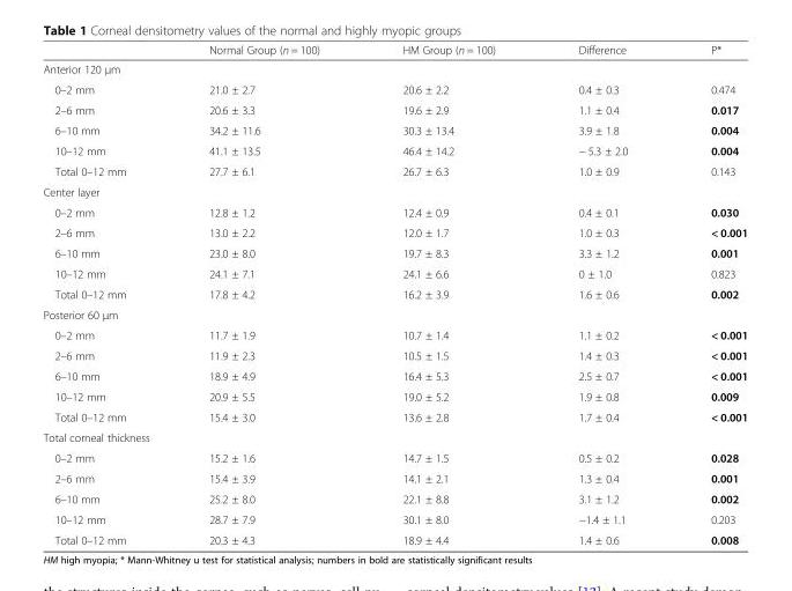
<table><thead><tr><td></td><td>Normal Group (n = 100)</td><td>HM Group (n = 100)</td><td>Difference</td><td>P*</td></tr></thead><tbody><tr><td colspan="5">Anterior 120 μm</td></tr><tr><td>0–2 mm</td><td>21.0 ± 2.7</td><td>20.6 ± 2.2</td><td>0.4 ± 0.3</td><td>0.474</td></tr><tr><td>2–6 mm</td><td>20.6 ± 3.3</td><td>19.6 ± 2.9</td><td>1.1 ± 0.4</td><td>0.017</td></tr><tr><td>6–10 mm</td><td>34.2 ± 11.6</td><td>30.3 ± 13.4</td><td>3.9 ± 1.8</td><td>0.004</td></tr><tr><td>10–12 mm</td><td>41.1 ± 13.5</td><td>46.4 ± 14.2</td><td>− 5.3 ± 2.0</td><td>0.004</td></tr><tr><td>Total 0–12 mm</td><td>27.7 ± 6.1</td><td>26.7 ± 6.3</td><td>1.0 ± 0.9</td><td>0.143</td></tr><tr><td colspan="5">Center layer</td></tr><tr><td>0–2 mm</td><td>12.8 ± 1.2</td><td>12.4 ± 0.9</td><td>0.4 ± 0.1</td><td>0.030</td></tr><tr><td>2–6 mm</td><td>13.0 ± 2.2</td><td>12.0 ± 1.7</td><td>1.0 ± 0.3</td><td>&lt; 0.001</td></tr><tr><td>6–10 mm</td><td>23.0 ± 8.0</td><td>19.7 ± 8.3</td><td>3.3 ± 1.2</td><td>0.001</td></tr><tr><td>10–12 mm</td><td>24.1 ± 7.1</td><td>24.1 ± 6.6</td><td>0 ± 1.0</td><td>0.823</td></tr><tr><td>Total 0–12 mm</td><td>17.8 ± 4.2</td><td>16.2 ± 3.9</td><td>1.6 ± 0.6</td><td>0.002</td></tr><tr><td colspan="5">Posterior 60 μm</td></tr><tr><td>0–2 mm</td><td>11.7 ± 1.9</td><td>10.7 ± 1.4</td><td>1.1 ± 0.2</td><td>&lt; 0.001</td></tr><tr><td>2–6 mm</td><td>11.9 ± 2.3</td><td>10.5 ± 1.5</td><td>1.4 ± 0.3</td><td>&lt; 0.001</td></tr><tr><td>6–10 mm</td><td>18.9 ± 4.9</td><td>16.4 ± 5.3</td><td>2.5 ± 0.7</td><td>&lt; 0.001</td></tr><tr><td>10–12 mm</td><td>20.9 ± 5.5</td><td>19.0 ± 5.2</td><td>1.9 ± 0.8</td><td>0.009</td></tr><tr><td>Total 0–12 mm</td><td>15.4 ± 3.0</td><td>13.6 ± 2.8</td><td>1.7 ± 0.4</td><td>&lt; 0.001</td></tr><tr><td colspan="5">Total corneal thickness</td></tr><tr><td>0–2 mm</td><td>15.2 ± 1.6</td><td>14.7 ± 1.5</td><td>0.5 ± 0.2</td><td>0.028</td></tr><tr><td>2–6 mm</td><td>15.4 ± 3.9</td><td>14.1 ± 2.1</td><td>1.3 ± 0.4</td><td>0.001</td></tr><tr><td>6–10 mm</td><td>25.2 ± 8.0</td><td>22.1 ± 8.8</td><td>3.1 ± 1.2</td><td>0.002</td></tr><tr><td>10–12 mm</td><td>28.7 ± 7.9</td><td>30.1 ± 8.0</td><td>−1.4 ± 1.1</td><td>0.203</td></tr><tr><td>Total 0–12 mm</td><td>20.3 ± 4.3</td><td>18.9 ± 4.4</td><td>1.4 ± 0.6</td><td>0.008</td></tr></tbody></table>